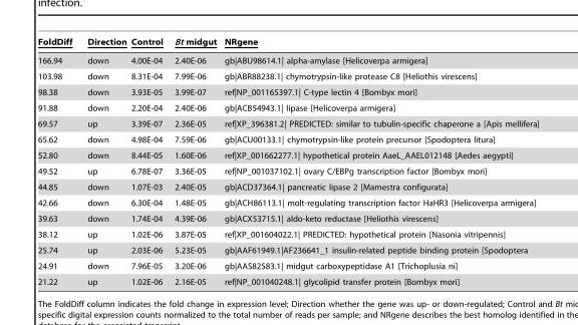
<table><thead><tr><td>FoldDiff</td><td>Direction</td><td>Control</td><td>Bt midgut</td><td>NRgene</td></tr></thead><tbody><tr><td>166.94</td><td>down</td><td>4.00E-04</td><td>2.40E-06</td><td>gb|ABU98614.1| alpha-amylase [Helicoverpa armigera]</td></tr><tr><td>103.98</td><td>down</td><td>8.31E-04</td><td>7.99E-06</td><td>gb|ABR88238.1| chymotrypsin-like protease C8 [Heliothis virescens]</td></tr><tr><td>98.38</td><td>down</td><td>3.93E-05</td><td>3.99E-07</td><td>ref|NP_001165397.1| C-type lectin 4 [Bombyx mori]</td></tr><tr><td>91.88</td><td>down</td><td>2.20E-04</td><td>2.40E-06</td><td>gb|ACB54943.1| lipase [Helicoverpa armigera]</td></tr><tr><td>69.57</td><td>up</td><td>3.39E-07</td><td>2.36E-05</td><td>ref|XP_396381.2| PREDICTED: similar to tubulin-specific chaperone a [Apis mellifera]</td></tr><tr><td>65.62</td><td>down</td><td>4.98E-04</td><td>7.59E-06</td><td>gb|ACU00133.1| chymotrypsin-like protein precursor [Spodoptera litura]</td></tr><tr><td>52.80</td><td>down</td><td>8.44E-05</td><td>1.60E-06</td><td>ref|XP_001662277.1| hypothetical protein AaeL_AAEL012148 [Aedes aegypti]</td></tr><tr><td>49.52</td><td>up</td><td>6.78E-07</td><td>3.36E-05</td><td>ref|NP_001037102.1| ovary C/EBPg transcription factor [Bombyx mori]</td></tr><tr><td>44.85</td><td>down</td><td>1.07E-03</td><td>2.40E-05</td><td>gb|ACD37364.1| pancreatic lipase 2 [Mamestra configurata]</td></tr><tr><td>42.66</td><td>down</td><td>6.30E-04</td><td>1.48E-05</td><td>gb|ACH86113.1| molt-regulating transcription factor HaHR3 [Helicoverpa armigera]</td></tr><tr><td>39.63</td><td>down</td><td>1.74E-04</td><td>4.39E-06</td><td>gb|ACX53715.1| aldo-keto reductase [Heliothis virescens]</td></tr><tr><td>38.12</td><td>up</td><td>1.02E-06</td><td>3.87E-05</td><td>ref|XP_001604022.1| PREDICTED: hypothetical protein [Nasonia vitripennis]</td></tr><tr><td>25.74</td><td>up</td><td>2.03E-06</td><td>5.23E-05</td><td>gb|AAF61949.1|AF236641_1 insulin-related peptide binding protein [Spodoptera</td></tr><tr><td>24.91</td><td>down</td><td>7.96E-05</td><td>3.20E-06</td><td>gb|AAS82583.1| midgut carboxypeptidase A1 [Trichoplusia ni]</td></tr><tr><td>21.22</td><td>up</td><td>1.02E-06</td><td>2.16E-05</td><td>ref|NP_001040248.1| glycolipid transfer protein [Bombyx mori]</td></tr></tbody></table>